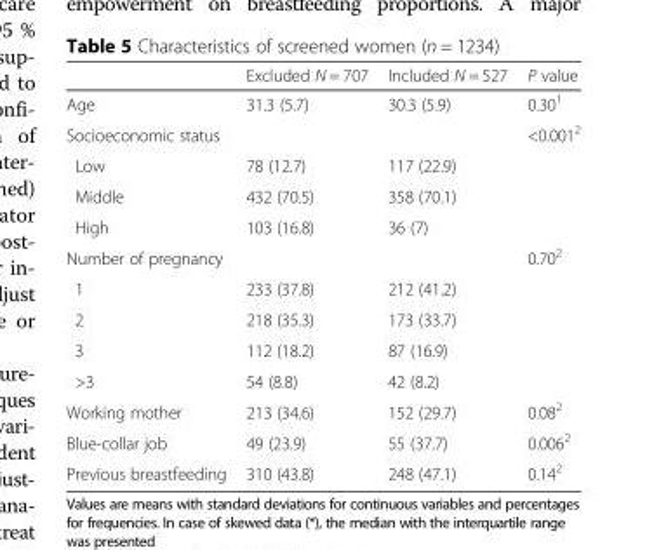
<table><thead><tr><td></td><td>Excluded N = 707</td><td>Included N = 527</td><td>P value</td></tr></thead><tbody><tr><td>Age</td><td>31.3 (5.7)</td><td>30.3 (5.9)</td><td>0.30<sup>1</sup></td></tr><tr><td>Socioeconomic status</td><td></td><td></td><td>&lt;0.001<sup>2</sup></td></tr><tr><td>Low</td><td>78 (12.7)</td><td>117 (22.9)</td><td></td></tr><tr><td>Middle</td><td>432 (70.5)</td><td>358 (70.1)</td><td></td></tr><tr><td>High</td><td>103 (16.8)</td><td>36 (7)</td><td></td></tr><tr><td>Number of pregnancy</td><td></td><td></td><td>0.70<sup>2</sup></td></tr><tr><td>1</td><td>233 (37.8)</td><td>212 (41.2)</td><td></td></tr><tr><td>2</td><td>218 (35.3)</td><td>173 (33.7)</td><td></td></tr><tr><td>3</td><td>112 (18.2)</td><td>87 (16.9)</td><td></td></tr><tr><td>&gt;3</td><td>54 (8.8)</td><td>42 (8.2)</td><td></td></tr><tr><td>Working mother</td><td>213 (34.6)</td><td>152 (29.7)</td><td>0.08<sup>2</sup></td></tr><tr><td>Blue-collar job</td><td>49 (23.9)</td><td>55 (37.7)</td><td>0.006<sup>2</sup></td></tr><tr><td>Previous breastfeeding</td><td>310 (43.8)</td><td>248 (47.1)</td><td>0.14<sup>2</sup></td></tr></tbody></table>